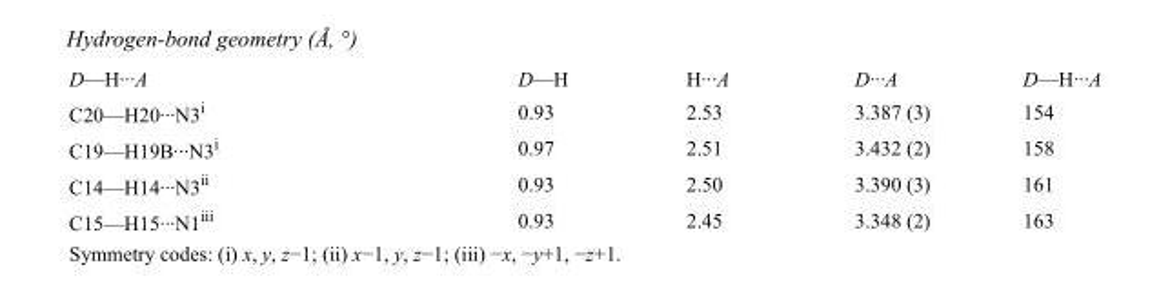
<table><tbody><tr><td>D—H···A</td><td>D—H</td><td>H···A</td><td>D···A</td><td>D—H···A</td></tr><tr><td>C20—H20···N3<sup>i</sup></td><td>0.93</td><td>2.53</td><td>3.387 (3)</td><td>154</td></tr><tr><td>C19—H19B···N3<sup>i</sup></td><td>0.97</td><td>2.51</td><td>3.432 (2)</td><td>158</td></tr><tr><td>C14—H14···N3<sup>ii</sup></td><td>0.93</td><td>2.50</td><td>3.390 (3)</td><td>161</td></tr><tr><td>C15—H15···N1<sup>iii</sup></td><td>0.93</td><td>2.45</td><td>3.348 (2)</td><td>163</td></tr></tbody></table>